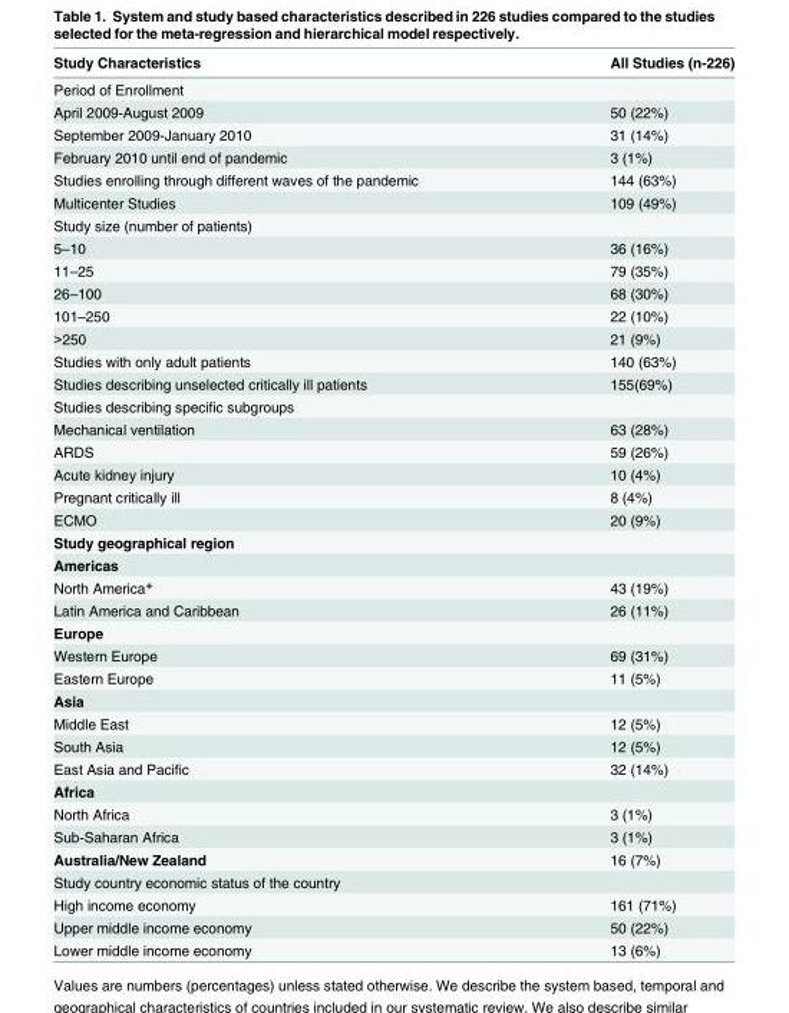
<table><thead><tr><td>Study Characteristics</td><td>All Studies (n-226)</td></tr></thead><tbody><tr><td colspan="2">Period of Enrollment</td></tr><tr><td>April 2009-August 2009</td><td>50 (22%)</td></tr><tr><td>September 2009-January 2010</td><td>31 (14%)</td></tr><tr><td>February 2010 until end of pandemic</td><td>3 (1%)</td></tr><tr><td>Studies enrolling through different waves of the pandemic</td><td>144 (63%)</td></tr><tr><td>Multicenter Studies</td><td>109 (49%)</td></tr><tr><td colspan="2">Study size (number of patients)</td></tr><tr><td>5–10</td><td>36 (16%)</td></tr><tr><td>11–25</td><td>79 (35%)</td></tr><tr><td>26–100</td><td>68 (30%)</td></tr><tr><td>101–250</td><td>22 (10%)</td></tr><tr><td>&gt;250</td><td>21 (9%)</td></tr><tr><td>Studies with only adult patients</td><td>140 (63%)</td></tr><tr><td>Studies describing unselected critically ill patients</td><td>155(69%)</td></tr><tr><td colspan="2">Studies describing specific subgroups</td></tr><tr><td>Mechanical ventilation</td><td>63 (28%)</td></tr><tr><td>ARDS</td><td>59 (26%)</td></tr><tr><td>Acute kidney injury</td><td>10 (4%)</td></tr><tr><td>Pregnant critically ill</td><td>8 (4%)</td></tr><tr><td>ECMO</td><td>20 (9%)</td></tr><tr><td colspan="2">Study geographical region</td></tr><tr><td colspan="2">Americas</td></tr><tr><td>North America*</td><td>43 (19%)</td></tr><tr><td>Latin America and Caribbean</td><td>26 (11%)</td></tr><tr><td colspan="2">Europe</td></tr><tr><td>Western Europe</td><td>69 (31%)</td></tr><tr><td>Eastern Europe</td><td>11 (5%)</td></tr><tr><td colspan="2">Asia</td></tr><tr><td>Middle East</td><td>12 (5%)</td></tr><tr><td>South Asia</td><td>12 (5%)</td></tr><tr><td>East Asia and Pacific</td><td>32 (14%)</td></tr><tr><td colspan="2">Africa</td></tr><tr><td>North Africa</td><td>3 (1%)</td></tr><tr><td>Sub-Saharan Africa</td><td>3 (1%)</td></tr><tr><td>Australia/New Zealand</td><td>16 (7%)</td></tr><tr><td colspan="2">Study country economic status of the country</td></tr><tr><td>High income economy</td><td>161 (71%)</td></tr><tr><td>Upper middle income economy</td><td>50 (22%)</td></tr><tr><td>Lower middle income economy</td><td>13 (6%)</td></tr></tbody></table>